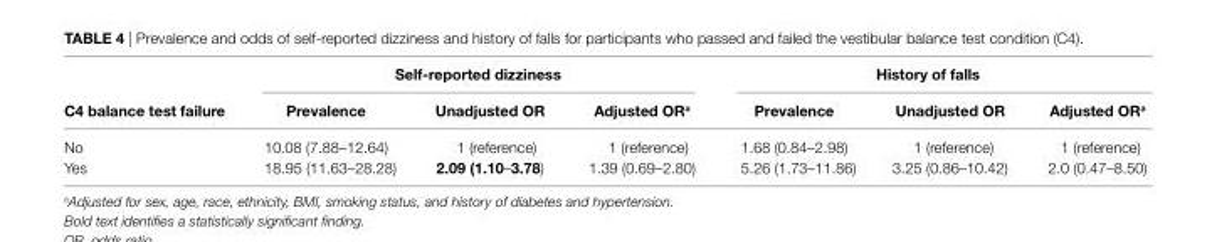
<table><thead><tr><td rowspan="2">c4 balance test failure</td><td colspan="3">self-reported dizziness</td><td colspan="3">history of falls</td></tr><tr><td>Prevalence</td><td>Unadjusted Or</td><td>adjusted Or<sup>a</sup></td><td>Prevalence</td><td>Unadjusted Or</td><td>adjusted Or<sup>a</sup></td></tr></thead><tbody><tr><td>No</td><td>10.08 (7.88–12.64)</td><td>1 (reference)</td><td>1 (reference)</td><td>1.68 (0.84–2.98)</td><td>1 (reference)</td><td>1 (reference)</td></tr><tr><td>Yes</td><td>18.95 (11.63–28.28)</td><td>2.09 (1.10–3.78)</td><td>1.39 (0.69–2.80)</td><td>5.26 (1.73–11.86)</td><td>3.25 (0.86–10.42)</td><td>2.0 (0.47–8.50)</td></tr></tbody></table>